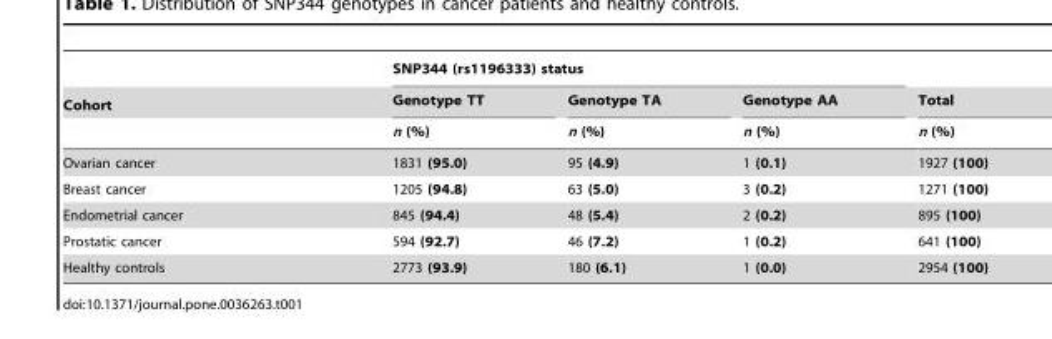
<table><thead><tr><td rowspan="3">Cohort</td><td colspan="3">SNP344 (rs1196333) status</td><td rowspan="3">Total n (%)</td></tr><tr><td rowspan="2">Genotype TT n (%)</td><td rowspan="2">Genotype TA n (%)</td><td rowspan="2">Genotype AA n (%)</td></tr><tr></tr></thead><tbody><tr><td>Ovarian cancer</td><td>1831 (95.0)</td><td>95 (4.9)</td><td>1 (0.1)</td><td>1927 (100)</td></tr><tr><td>Breast cancer</td><td>1205 (94.8)</td><td>63 (5.0)</td><td>3 (0.2)</td><td>1271 (100)</td></tr><tr><td>Endometrial cancer</td><td>845 (94.4)</td><td>48 (5.4)</td><td>2 (0.2)</td><td>895 (100)</td></tr><tr><td>Prostatic cancer</td><td>594 (92.7)</td><td>46 (7.2)</td><td>1 (0.2)</td><td>641 (100)</td></tr><tr><td>Healthy controls</td><td>2773 (93.9)</td><td>180 (6.1)</td><td>1 (0.0)</td><td>2954 (100)</td></tr></tbody></table>